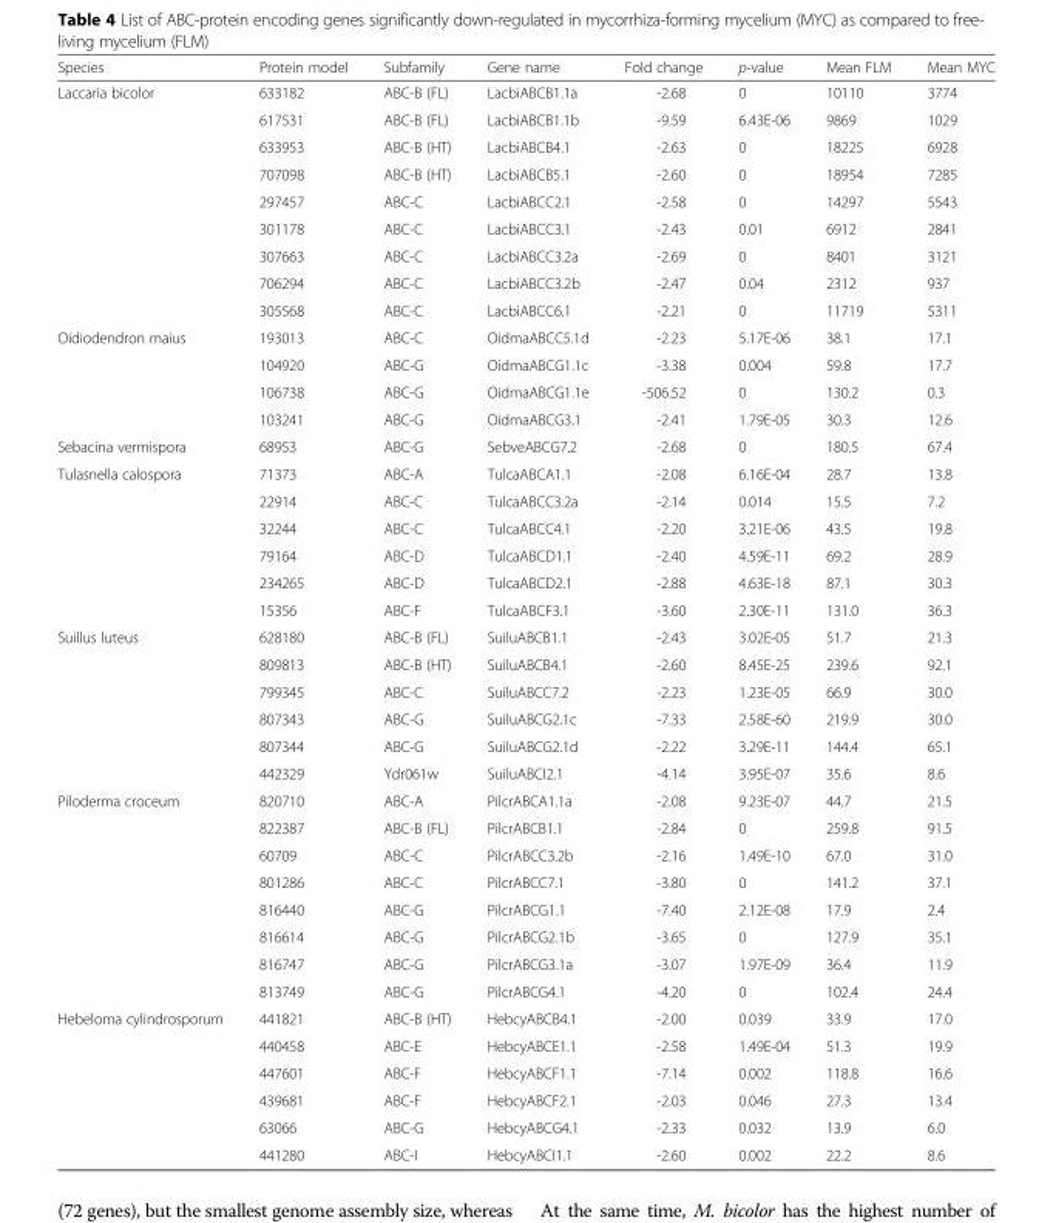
<table><thead><tr><td>Species</td><td>Protein model</td><td>Subfamily</td><td>Gene name</td><td>Fold change</td><td>p-value</td><td>Mean FLM</td><td>Mean MYC</td></tr></thead><tbody><tr><td rowspan="9">Laccaria bicolor</td><td>633182</td><td>ABC-B (FL)</td><td>LacbiABCB1.1a</td><td>-2.68</td><td>0</td><td>10110</td><td>3774</td></tr><tr><td>617531</td><td>ABC-B (FL)</td><td>LacbiABCB1.1b</td><td>-9.59</td><td>6.43E-06</td><td>9869</td><td>1029</td></tr><tr><td>633953</td><td>ABC-B (HT)</td><td>LacbiABCB4.1</td><td>-2.63</td><td>0</td><td>18225</td><td>6928</td></tr><tr><td>707098</td><td>ABC-B (HT)</td><td>LacbiABCB5.1</td><td>-2.60</td><td>0</td><td>18954</td><td>7285</td></tr><tr><td>297457</td><td>ABC-C</td><td>LacbiABCC2.1</td><td>-2.58</td><td>0</td><td>14297</td><td>5543</td></tr><tr><td>301178</td><td>ABC-C</td><td>LacbiABCC3.1</td><td>-2.43</td><td>0.01</td><td>6912</td><td>2841</td></tr><tr><td>307663</td><td>ABC-C</td><td>LacbiABCC3.2a</td><td>-2.69</td><td>0</td><td>8401</td><td>3121</td></tr><tr><td>706294</td><td>ABC-C</td><td>LacbiABCC3.2b</td><td>-2.47</td><td>0.04</td><td>2312</td><td>937</td></tr><tr><td>305568</td><td>ABC-C</td><td>LacbiABCC6.1</td><td>-2.21</td><td>0</td><td>11719</td><td>5311</td></tr><tr><td rowspan="4">Oidiodendron maius</td><td>193013</td><td>ABC-C</td><td>OidmaABCC5.1d</td><td>-2.23</td><td>5.17E-06</td><td>38.1</td><td>17.1</td></tr><tr><td>104920</td><td>ABC-G</td><td>OidmaABCG1.1c</td><td>-3.38</td><td>0.004</td><td>59.8</td><td>17.7</td></tr><tr><td>106738</td><td>ABC-G</td><td>OidmaABCG1.1e</td><td>-506.52</td><td>0</td><td>130.2</td><td>0.3</td></tr><tr><td>103241</td><td>ABC-G</td><td>OidmaABCG3.1</td><td>-2.41</td><td>1.79E-05</td><td>30.3</td><td>12.6</td></tr><tr><td>Sebacina vermispora</td><td>68953</td><td>ABC-G</td><td>SebveABCG7.2</td><td>-2.68</td><td>0</td><td>180.5</td><td>67.4</td></tr><tr><td rowspan="6">Tulasnella calospora</td><td>71373</td><td>ABC-A</td><td>TulcaABCA1.1</td><td>-2.08</td><td>6.16E-04</td><td>28.7</td><td>13.8</td></tr><tr><td>22914</td><td>ABC-C</td><td>TulcaABCC3.2a</td><td>-2.14</td><td>0.014</td><td>15.5</td><td>7.2</td></tr><tr><td>32244</td><td>ABC-C</td><td>TulcaABCC4.1</td><td>-2.20</td><td>3.21E-06</td><td>43.5</td><td>19.8</td></tr><tr><td>79164</td><td>ABC-D</td><td>TulcaABCD1.1</td><td>-2.40</td><td>4.59E-11</td><td>69.2</td><td>28.9</td></tr><tr><td>234265</td><td>ABC-D</td><td>TulcaABCD2.1</td><td>-2.88</td><td>4.63E-18</td><td>87.1</td><td>30.3</td></tr><tr><td>15356</td><td>ABC-F</td><td>TulcaABCF3.1</td><td>-3.60</td><td>2.30E-11</td><td>131.0</td><td>36.3</td></tr><tr><td rowspan="6">Suillus luteus</td><td>628180</td><td>ABC-B (FL)</td><td>SuiluABCB1.1</td><td>-2.43</td><td>3.02E-05</td><td>51.7</td><td>21.3</td></tr><tr><td>809813</td><td>ABC-B (HT)</td><td>SuiluABCB4.1</td><td>-2.60</td><td>8.45E-25</td><td>239.6</td><td>92.1</td></tr><tr><td>799345</td><td>ABC-C</td><td>SuiluABCC7.2</td><td>-2.23</td><td>1.23E-05</td><td>66.9</td><td>30.0</td></tr><tr><td>807343</td><td>ABC-G</td><td>SuiluABCG2.1c</td><td>-7.33</td><td>2.58E-60</td><td>219.9</td><td>30.0</td></tr><tr><td>807344</td><td>ABC-G</td><td>SuiluABCG2.1d</td><td>-2.22</td><td>3.29E-11</td><td>144.4</td><td>65.1</td></tr><tr><td>442329</td><td>Ydr061w</td><td>SuiluABCI2.1</td><td>-4.14</td><td>3.95E-07</td><td>35.6</td><td>8.6</td></tr><tr><td rowspan="8">Piloderma croceum</td><td>820710</td><td>ABC-A</td><td>PilcrABCA1.1a</td><td>-2.08</td><td>9.23E-07</td><td>44.7</td><td>21.5</td></tr><tr><td>822387</td><td>ABC-B (FL)</td><td>PilcrABCB1.1</td><td>-2.84</td><td>0</td><td>259.8</td><td>91.5</td></tr><tr><td>60709</td><td>ABC-C</td><td>PilcrABCC3.2b</td><td>-2.16</td><td>1.49E-10</td><td>67.0</td><td>31.0</td></tr><tr><td>801286</td><td>ABC-C</td><td>PilcrABCC7.1</td><td>-3.80</td><td>0</td><td>141.2</td><td>37.1</td></tr><tr><td>816440</td><td>ABC-G</td><td>PilcrABCG1.1</td><td>-7.40</td><td>2.12E-08</td><td>17.9</td><td>2.4</td></tr><tr><td>816614</td><td>ABC-G</td><td>PilcrABCG2.1b</td><td>-3.65</td><td>0</td><td>127.9</td><td>35.1</td></tr><tr><td>816747</td><td>ABC-G</td><td>PilcrABCG3.1a</td><td>-3.07</td><td>1.97E-09</td><td>36.4</td><td>11.9</td></tr><tr><td>813749</td><td>ABC-G</td><td>PilcrABCG4.1</td><td>-4.20</td><td>0</td><td>102.4</td><td>24.4</td></tr><tr><td rowspan="6">Hebeloma cylindrosporum</td><td>441821</td><td>ABC-B (HT)</td><td>HebcyABCB4.1</td><td>-2.00</td><td>0.039</td><td>33.9</td><td>17.0</td></tr><tr><td>440458</td><td>ABC-E</td><td>HebcyABCE1.1</td><td>-2.58</td><td>1.49E-04</td><td>51.3</td><td>19.9</td></tr><tr><td>447601</td><td>ABC-F</td><td>HebcyABCF1.1</td><td>-7.14</td><td>0.002</td><td>118.8</td><td>16.6</td></tr><tr><td>439681</td><td>ABC-F</td><td>HebcyABCF2.1</td><td>-2.03</td><td>0.046</td><td>27.3</td><td>13.4</td></tr><tr><td>63066</td><td>ABC-G</td><td>HebcyABCG4.1</td><td>-2.33</td><td>0.032</td><td>13.9</td><td>6.0</td></tr><tr><td>441280</td><td>ABC-I</td><td>HebcyABCI1.1</td><td>-2.60</td><td>0.002</td><td>22.2</td><td>8.6</td></tr></tbody></table>